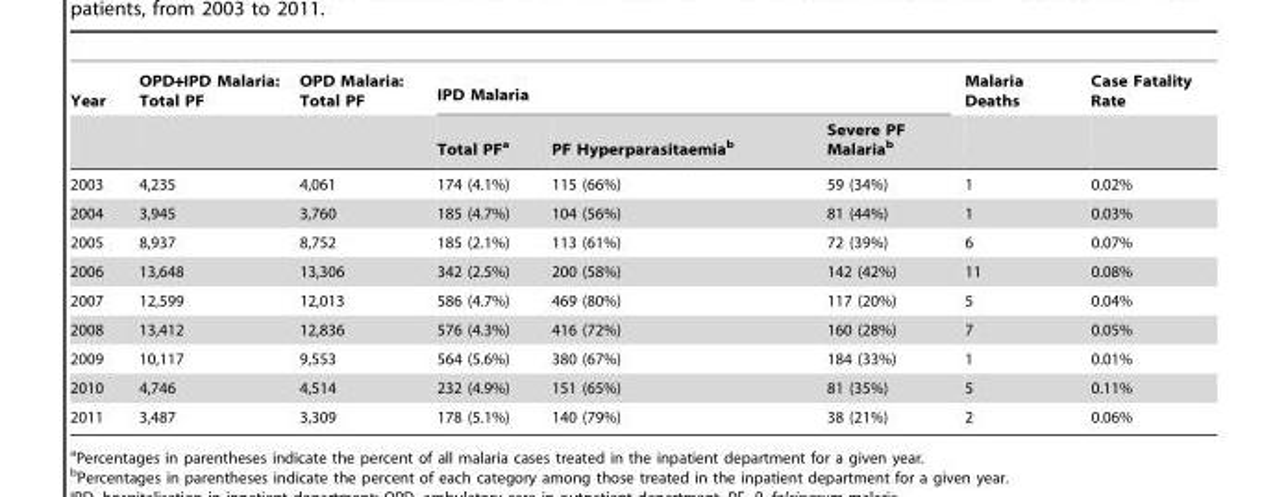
<table><thead><tr><td rowspan="2">Year</td><td rowspan="2">OPD+IPD Malaria: Total PF</td><td rowspan="2">OPD Malaria: Total PF</td><td colspan="3">IPD Malaria</td><td rowspan="2">Malaria Deaths</td><td rowspan="2">Case Fatality Rate</td></tr><tr><td>Total PF<sup>a</sup></td><td>PF Hyperparasitaemia<sup>b</sup></td><td>Severe PF Malaria<sup>b</sup></td></tr></thead><tbody><tr><td>2003</td><td>4,235</td><td>4,061</td><td>174 (4.1%)</td><td>115 (66%)</td><td>59 (34%)</td><td>1</td><td>0.02%</td></tr><tr><td>2004</td><td>3,945</td><td>3,760</td><td>185 (4.7%)</td><td>104 (56%)</td><td>81 (44%)</td><td>1</td><td>0.03%</td></tr><tr><td>2005</td><td>8,937</td><td>8,752</td><td>185 (2.1%)</td><td>113 (61%)</td><td>72 (39%)</td><td>6</td><td>0.07%</td></tr><tr><td>2006</td><td>13,648</td><td>13,306</td><td>342 (2.5%)</td><td>200 (58%)</td><td>142 (42%)</td><td>11</td><td>0.08%</td></tr><tr><td>2007</td><td>12,599</td><td>12,013</td><td>586 (4.7%)</td><td>469 (80%)</td><td>117 (20%)</td><td>5</td><td>0.04%</td></tr><tr><td>2008</td><td>13,412</td><td>12,836</td><td>576 (4.3%)</td><td>416 (72%)</td><td>160 (28%)</td><td>7</td><td>0.05%</td></tr><tr><td>2009</td><td>10,117</td><td>9,553</td><td>564 (5.6%)</td><td>380 (67%)</td><td>184 (33%)</td><td>1</td><td>0.01%</td></tr><tr><td>2010</td><td>4,746</td><td>4,514</td><td>232 (4.9%)</td><td>151 (65%)</td><td>81 (35%)</td><td>5</td><td>0.11%</td></tr><tr><td>2011</td><td>3,487</td><td>3,309</td><td>178 (5.1%)</td><td>140 (79%)</td><td>38 (21%)</td><td>2</td><td>0.06%</td></tr></tbody></table>